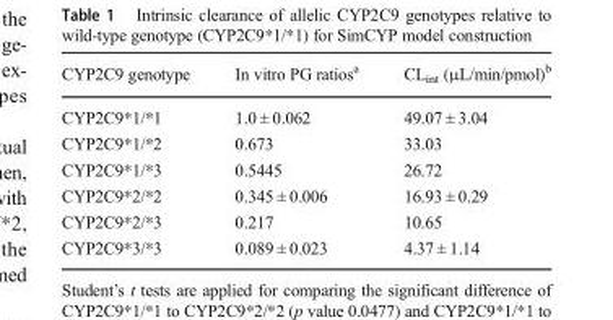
<table><thead><tr><td>CYP2C9 genotype</td><td>In vitro PG ratios<sup>a</sup></td><td>CL<sub>int</sub> (μL/min/pmol)<sup>b</sup></td></tr></thead><tbody><tr><td>CYP2C9*1/*1</td><td>1.0 ± 0.062</td><td>49.07 ± 3.04</td></tr><tr><td>CYP2C9*1/*2</td><td>0.673</td><td>33.03</td></tr><tr><td>CYP2C9*1/*3</td><td>0.5445</td><td>26.72</td></tr><tr><td>CYP2C9*2/*2</td><td>0.345 ± 0.006</td><td>16.93 ± 0.29</td></tr><tr><td>CYP2C9*2/*3</td><td>0.217</td><td>10.65</td></tr><tr><td>CYP2C9*3/*3</td><td>0.089 ± 0.023</td><td>4.37 ± 1.14</td></tr></tbody></table>